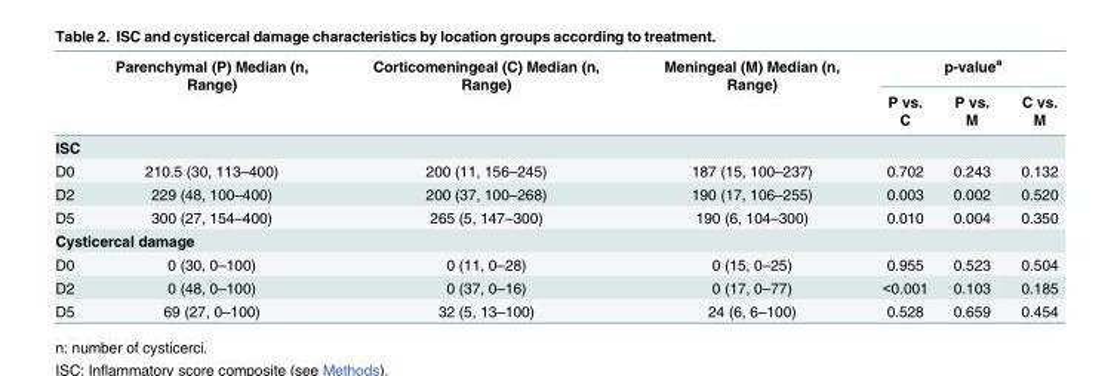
<table><thead><tr><td rowspan="2"></td><td rowspan="2">Parenchymal (P) Median (n, Range)</td><td rowspan="2">Corticomeningeal (C) Median (n, Range)</td><td rowspan="2">Meningeal (M) Median (n, Range)</td><td colspan="3">p-value<sup>a</sup></td></tr><tr><td>P vs. C</td><td>P vs. M</td><td>C vs. M</td></tr></thead><tbody><tr><td colspan="7">ISC</td></tr><tr><td>D0</td><td>210.5 (30, 113–400)</td><td>200 (11, 156–245)</td><td>187 (15, 100–237)</td><td>0.702</td><td>0.243</td><td>0.132</td></tr><tr><td>D2</td><td>229 (48, 100–400)</td><td>200 (37, 100–268)</td><td>190 (17, 106–255)</td><td>0.003</td><td>0.002</td><td>0.520</td></tr><tr><td>D5</td><td>300 (27, 154–400)</td><td>265 (5, 147–300)</td><td>190 (6, 104–300)</td><td>0.010</td><td>0.004</td><td>0.350</td></tr><tr><td colspan="7">Cysticercal damage</td></tr><tr><td>D0</td><td>0 (30, 0–100)</td><td>0 (11, 0–28)</td><td>0 (15, 0–25)</td><td>0.955</td><td>0.523</td><td>0.504</td></tr><tr><td>D2</td><td>0 (48, 0–100)</td><td>0 (37, 0–16)</td><td>0 (17, 0–77)</td><td>&lt;0.001</td><td>0.103</td><td>0.185</td></tr><tr><td>D5</td><td>69 (27, 0–100)</td><td>32 (5, 13–100)</td><td>24 (6, 6–100)</td><td>0.528</td><td>0.659</td><td>0.454</td></tr></tbody></table>